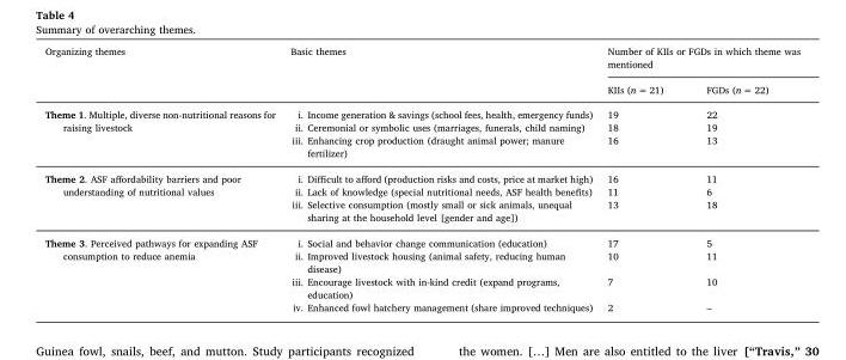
<table><thead><tr><td rowspan="2">Organizing themes</td><td rowspan="2">Basic themes</td><td colspan="2">Number of KIIs or FGDs in which theme was mentioned</td></tr><tr><td>KIIs (n = 21)</td><td>FGDs (n = 22)</td></tr></thead><tbody><tr><td rowspan="3">Theme 1. Multiple, diverse non-nutritional reasons for raising livestock</td><td>i. Income generation &amp; savings (school fees, health, emergency funds)</td><td>19</td><td>22</td></tr><tr><td>ii. Ceremonial or symbolic uses (marriages, funerals, child naming)</td><td>18</td><td>19</td></tr><tr><td>iii. Enhancing crop production (draught animal power; manure fertilizer)</td><td>16</td><td>13</td></tr><tr><td rowspan="3">Theme 2. ASF affordability barriers and poor understanding of nutritional values</td><td>i. Difficult to afford (production risks and costs, price at market high)</td><td>16</td><td>11</td></tr><tr><td>ii. Lack of knowledge (special nutritional needs, ASF health benefits)</td><td>11</td><td>6</td></tr><tr><td>iii. Selective consumption (mostly small or sick animals, unequal sharing at the household level [gender and age])</td><td>13</td><td>18</td></tr><tr><td rowspan="4">Theme 3. Perceived pathways for expanding ASF consumption to reduce anemia</td><td>i. Social and behavior change communication (education)</td><td>17</td><td>5</td></tr><tr><td>ii. Improved livestock housing (animal safety, reducing human disease)</td><td>10</td><td>11</td></tr><tr><td>iii. Encourage livestock with in-kind credit (expand programs, education)</td><td>7</td><td>10</td></tr><tr><td>iv. Enhanced fowl hatchery management (share improved techniques)</td><td>2</td><td>–</td></tr></tbody></table>